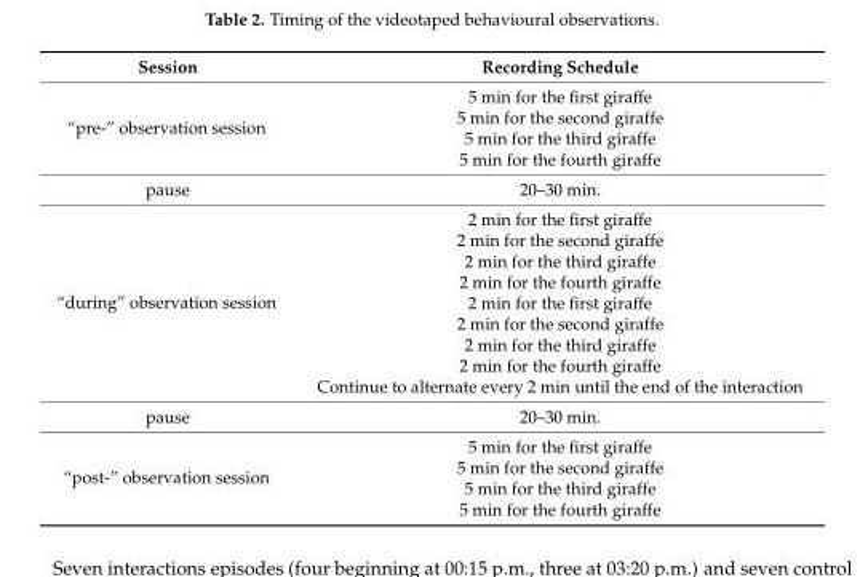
<table><thead><tr><td>Session</td><td>Recording Schedule</td></tr></thead><tbody><tr><td rowspan="4">“pre-” observation session</td><td>5 min for the first giraffe</td></tr><tr><td>5 min for the second giraffe</td></tr><tr><td>5 min for the third giraffe</td></tr><tr><td>5 min for the fourth giraffe</td></tr><tr><td>pause</td><td>20–30 min.</td></tr><tr><td rowspan="9">“during” observation session</td><td>2 min for the first giraffe</td></tr><tr><td>2 min for the second giraffe</td></tr><tr><td>2 min for the third giraffe</td></tr><tr><td>2 min for the fourth giraffe</td></tr><tr><td>2 min for the first giraffe</td></tr><tr><td>2 min for the second giraffe</td></tr><tr><td>2 min for the third giraffe</td></tr><tr><td>2 min for the fourth giraffe</td></tr><tr><td>Continue to alternate every 2 min until the end of the interaction</td></tr><tr><td>pause</td><td>20–30 min.</td></tr><tr><td rowspan="4">“post-” observation session</td><td>5 min for the first giraffe</td></tr><tr><td>5 min for the second giraffe</td></tr><tr><td>5 min for the third giraffe</td></tr><tr><td>5 min for the fourth giraffe</td></tr></tbody></table>